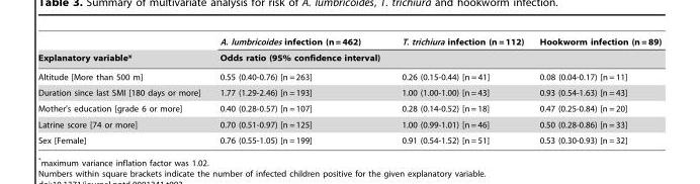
<table><thead><tr><td rowspan="2">Explanatory variable*</td><td>A. lumbricoides infection (n = 462)</td><td>T. trichiura infection (n = 112)</td><td>Hookworm infection (n = 89)</td></tr><tr><td colspan="3">Odds ratio (95% confidence interval)</td></tr></thead><tbody><tr><td>Altitude [More than 500 m]</td><td>0.55 (0.40-0.76) [n = 263]</td><td>0.26 (0.15-0.44) [n = 41]</td><td>0.08 (0.04-0.17) [n = 11]</td></tr><tr><td>Duration since last SMI [180 days or more]</td><td>1.77 (1.29-2.46) [n = 193]</td><td>1.00 (1.00-1.00) [n = 43]</td><td>0.93 (0.54-1.63) [n = 43]</td></tr><tr><td>Mother’s education [grade 6 or more]</td><td>0.40 (0.28-0.57) [n = 107]</td><td>0.28 (0.14-0.52) [n = 18]</td><td>0.47 (0.25-0.84) [n = 20]</td></tr><tr><td>Latrine score [74 or more]</td><td>0.70 (0.51-0.97) [n = 125]</td><td>1.00 (0.99-1.01) [n = 46]</td><td>0.50 (0.28-0.86) [n = 33]</td></tr><tr><td>Sex [Female]</td><td>0.76 (0.55-1.05) [n = 199]</td><td>0.91 (0.54-1.52) [n = 51]</td><td>0.53 (0.30-0.93) [n = 32]</td></tr></tbody></table>